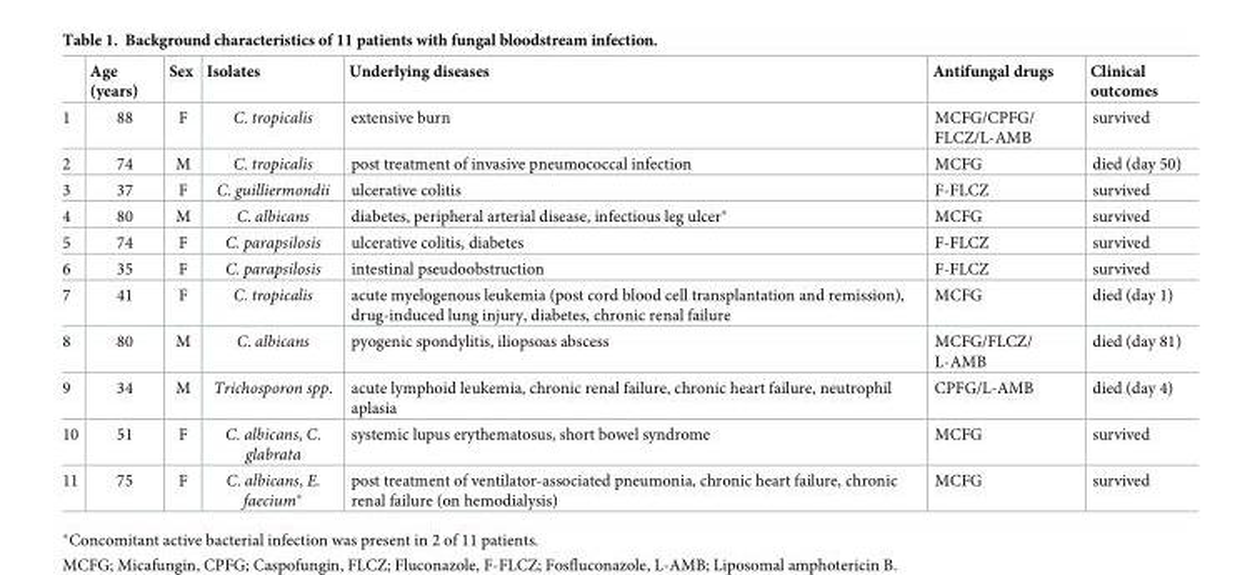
<table><thead><tr><td></td><td>Age (years)</td><td>Sex</td><td>Isolates</td><td>Underlying diseases</td><td>Antifungal drugs</td><td>Clinical outcomes</td></tr></thead><tbody><tr><td>1</td><td>88</td><td>F</td><td>C. tropicalis</td><td>extensive burn</td><td>MCFG/CPFG/ FLCZ/L-AMB</td><td>survived</td></tr><tr><td>2</td><td>74</td><td>M</td><td>C. tropicalis</td><td>post treatment of invasive pneumococcal infection</td><td>MCFG</td><td>died (day 50)</td></tr><tr><td>3</td><td>37</td><td>F</td><td>C. guilliermondii</td><td>ulcerative colitis</td><td>F-FLCZ</td><td>survived</td></tr><tr><td>4</td><td>80</td><td>M</td><td>C. albicans</td><td>diabetes, peripheral arterial disease, infectious leg ulcer*</td><td>MCFG</td><td>survived</td></tr><tr><td>5</td><td>74</td><td>F</td><td>C. parapsilosis</td><td>ulcerative colitis, diabetes</td><td>F-FLCZ</td><td>survived</td></tr><tr><td>6</td><td>35</td><td>F</td><td>C. parapsilosis</td><td>intestinal pseudoobstruction</td><td>F-FLCZ</td><td>survived</td></tr><tr><td>7</td><td>41</td><td>F</td><td>C. tropicalis</td><td>acute myelogenous leukemia (post cord blood cell transplantation and remission), drug-induced lung injury, diabetes, chronic renal failure</td><td>MCFG</td><td>died (day 1)</td></tr><tr><td>8</td><td>80</td><td>M</td><td>C. albicans</td><td>pyogenic spondylitis, iliopsoas abscess</td><td>MCFG/FLCZ/ L-AMB</td><td>died (day 81)</td></tr><tr><td>9</td><td>34</td><td>M</td><td>Trichosporon spp.</td><td>acute lymphoid leukemia, chronic renal failure, chronic heart failure, neutrophil aplasia</td><td>CPFG/L-AMB</td><td>died (day 4)</td></tr><tr><td>10</td><td>51</td><td>F</td><td>C. albicans, C. glabrata</td><td>systemic lupus erythematosus, short bowel syndrome</td><td>MCFG</td><td>survived</td></tr><tr><td>11</td><td>75</td><td>F</td><td>C. albicans, E. faecium*</td><td>post treatment of ventilator-associated pneumonia, chronic heart failure, chronic renal failure (on hemodialysis)</td><td>MCFG</td><td>survived</td></tr></tbody></table>